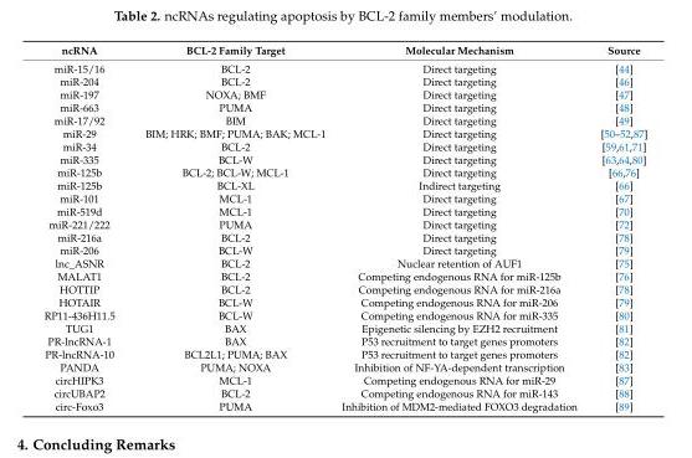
<table><thead><tr><td>ncRNA</td><td>BCL-2 Family Target</td><td>Molecular Mechanism</td><td>Source</td></tr></thead><tbody><tr><td>miR-15/16</td><td>BCL-2</td><td>Direct targeting</td><td>[44]</td></tr><tr><td>miR-204</td><td>BCL-2</td><td>Direct targeting</td><td>[46]</td></tr><tr><td>miR-197</td><td>NOXA; BMF</td><td>Direct targeting</td><td>[47]</td></tr><tr><td>miR-663</td><td>PUMA</td><td>Direct targeting</td><td>[48]</td></tr><tr><td>miR-17/92</td><td>BIM</td><td>Direct targeting</td><td>[49]</td></tr><tr><td>miR-29</td><td>BIM; HRK; BMF; PUMA; BAK; MCL-1</td><td>Direct targeting</td><td>[50–52,87]</td></tr><tr><td>miR-34</td><td>BCL-2</td><td>Direct targeting</td><td>[59,61,71]</td></tr><tr><td>miR-335</td><td>BCL-W</td><td>Direct targeting</td><td>[63,64,80]</td></tr><tr><td>miR-125b</td><td>BCL-2; BCL-W; MCL-1</td><td>Direct targeting</td><td>[66,76]</td></tr><tr><td>miR-125b</td><td>BCL-XL</td><td>Indirect targeting</td><td>[66]</td></tr><tr><td>miR-101</td><td>MCL-1</td><td>Direct targeting</td><td>[67]</td></tr><tr><td>miR-519d</td><td>MCL-1</td><td>Direct targeting</td><td>[70]</td></tr><tr><td>miR-221/222</td><td>PUMA</td><td>Direct targeting</td><td>[72]</td></tr><tr><td>miR-216a</td><td>BCL-2</td><td>Direct targeting</td><td>[78]</td></tr><tr><td>miR-206</td><td>BCL-W</td><td>Direct targeting</td><td>[79]</td></tr><tr><td>lnc_ASNR</td><td>BCL-2</td><td>Nuclear retention of AUF1</td><td>[75]</td></tr><tr><td>MALAT1</td><td>BCL-2</td><td>Competing endogenous RNA for miR-125b</td><td>[76]</td></tr><tr><td>HOTTIP</td><td>BCL-2</td><td>Competing endogenous RNA for miR-216a</td><td>[78]</td></tr><tr><td>HOTAIR</td><td>BCL-W</td><td>Competing endogenous RNA for miR-206</td><td>[79]</td></tr><tr><td>RP11-436H11.5</td><td>BCL-W</td><td>Competing endogenous RNA for miR-335</td><td>[80]</td></tr><tr><td>TUG1</td><td>BAX</td><td>Epigenetic silencing by EZH2 recruitment</td><td>[81]</td></tr><tr><td>PR-lncRNA-1</td><td>BAX</td><td>P53 recruitment to target genes promoters</td><td>[82]</td></tr><tr><td>PR-lncRNA-10</td><td>BCL2L1; PUMA; BAX</td><td>P53 recruitment to target genes promoters</td><td>[82]</td></tr><tr><td>PANDA</td><td>PUMA; NOXA</td><td>Inhibition of NF-YA-dependent transcription</td><td>[83]</td></tr><tr><td>circHIPK3</td><td>MCL-1</td><td>Competing endogenous RNA for miR-29</td><td>[87]</td></tr><tr><td>circUBAP2</td><td>BCL-2</td><td>Competing endogenous RNA for miR-143</td><td>[88]</td></tr><tr><td>circ-Foxo3</td><td>PUMA</td><td>Inhibition of MDM2-mediated FOXO3 degradation</td><td>[89]</td></tr></tbody></table>